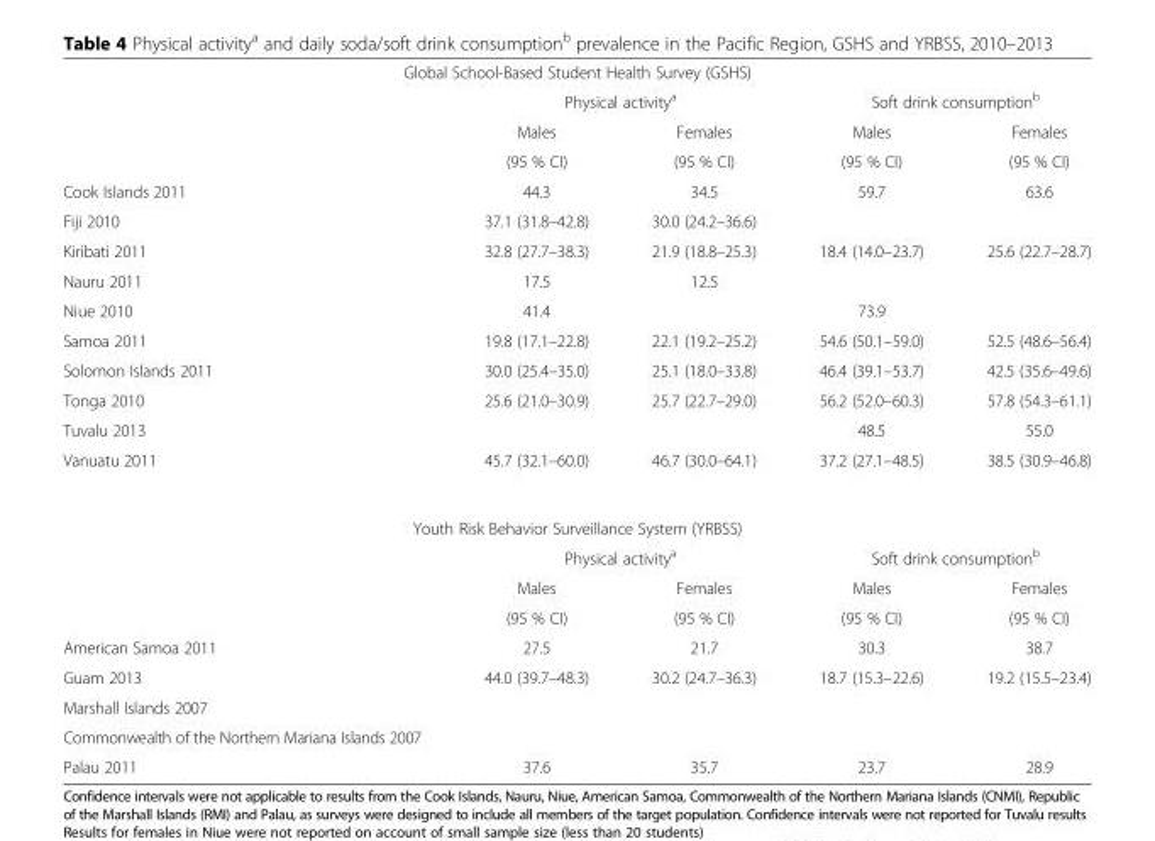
<table><tbody><tr><td colspan="5">Global School-Based Student Health Survey (GSHS)</td></tr><tr><td></td><td colspan="2">Physical activity<sup>a</sup></td><td colspan="2">Soft drink consumption<sup>b</sup></td></tr><tr><td></td><td>Males</td><td>Females</td><td>Males</td><td>Females</td></tr><tr><td></td><td>(95 % CI)</td><td>(95 % CI)</td><td>(95 % CI)</td><td>(95 % CI)</td></tr><tr><td>Cook Islands 2011</td><td>44.3</td><td>34.5</td><td>59.7</td><td>63.6</td></tr><tr><td>Fiji 2010</td><td>37.1 (31.8–42.8)</td><td>30.0 (24.2–36.6)</td><td></td><td></td></tr><tr><td>Kiribati 2011</td><td>32.8 (27.7–38.3)</td><td>21.9 (18.8–25.3)</td><td>18.4 (14.0–23.7)</td><td>25.6 (22.7–28.7)</td></tr><tr><td>Nauru 2011</td><td>17.5</td><td>12.5</td><td></td><td></td></tr><tr><td>Niue 2010</td><td>41.4</td><td></td><td>73.9</td><td></td></tr><tr><td>Samoa 2011</td><td>19.8 (17.1–22.8)</td><td>22.1 (19.2–25.2)</td><td>54.6 (50.1–59.0)</td><td>52.5 (48.6–56.4)</td></tr><tr><td>Solomon Islands 2011</td><td>30.0 (25.4–35.0)</td><td>25.1 (18.0–33.8)</td><td>46.4 (39.1–53.7)</td><td>42.5 (35.6–49.6)</td></tr><tr><td>Tonga 2010</td><td>25.6 (21.0–30.9)</td><td>25.7 (22.7–29.0)</td><td>56.2 (52.0–60.3)</td><td>57.8 (54.3–61.1)</td></tr><tr><td>Tuvalu 2013</td><td></td><td></td><td>48.5</td><td>55.0</td></tr><tr><td>Vanuatu 2011</td><td>45.7 (32.1–60.0)</td><td>46.7 (30.0–64.1)</td><td>37.2 (27.1–48.5)</td><td>38.5 (30.9–46.8)</td></tr><tr><td colspan="5">Youth Risk Behavior Surveillance System (YRBSS)</td></tr><tr><td></td><td colspan="2">Physical activity<sup>a</sup></td><td colspan="2">Soft drink consumption<sup>b</sup></td></tr><tr><td></td><td>Males</td><td>Females</td><td>Males</td><td>Females</td></tr><tr><td></td><td>(95 % CI)</td><td>(95 % CI)</td><td>(95 % CI)</td><td>(95 % CI)</td></tr><tr><td>American Samoa 2011</td><td>27.5</td><td>21.7</td><td>30.3</td><td>38.7</td></tr><tr><td>Guam 2013</td><td>44.0 (39.7–48.3)</td><td>30.2 (24.7–36.3)</td><td>18.7 (15.3–22.6)</td><td>19.2 (15.5–23.4)</td></tr><tr><td colspan="5">Marshall Islands 2007</td></tr><tr><td colspan="5">Commonwealth of the Northern Mariana Islands 2007</td></tr><tr><td>Palau 2011</td><td>37.6</td><td>35.7</td><td>23.7</td><td>28.9</td></tr></tbody></table>